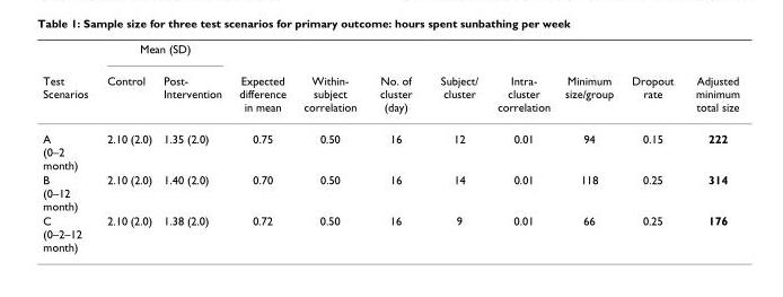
<table><thead><tr><td rowspan="2">Test Scenarios</td><td colspan="2">Mean (SD)</td><td rowspan="2">Expected difference in mean</td><td rowspan="2">Within- subject correlation</td><td rowspan="2">No. of cluster (day)</td><td rowspan="2">Subject/ cluster</td><td rowspan="2">Intra- cluster correlation</td><td rowspan="2">Minimum size/group</td><td rowspan="2">Dropout rate</td><td rowspan="2">Adjusted minimum total size</td></tr><tr><td>Control</td><td>Post- Intervention</td></tr></thead><tbody><tr><td>A (0–2 month)</td><td>2.10 (2.0)</td><td>1.35 (2.0)</td><td>0.75</td><td>0.50</td><td>16</td><td>12</td><td>0.01</td><td>94</td><td>0.15</td><td>222</td></tr><tr><td>B (0–12 month)</td><td>2.10 (2.0)</td><td>1.40 (2.0)</td><td>0.70</td><td>0.50</td><td>16</td><td>14</td><td>0.01</td><td>118</td><td>0.25</td><td>314</td></tr><tr><td>C (0–2–12 month)</td><td>2.10 (2.0)</td><td>1.38 (2.0)</td><td>0.72</td><td>0.50</td><td>16</td><td>9</td><td>0.01</td><td>66</td><td>0.25</td><td>176</td></tr></tbody></table>